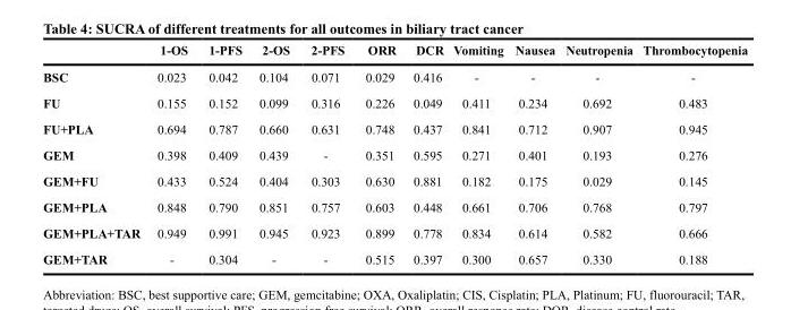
<table><thead><tr><td></td><td>1-OS</td><td>1-PFS</td><td>2-OS</td><td>2-PFS</td><td>ORR</td><td>DCR</td><td>Vomiting</td><td>Nausea</td><td>Neutropenia</td><td>Thrombocytopenia</td></tr></thead><tbody><tr><td>BSC</td><td>0.023</td><td>0.042</td><td>0.104</td><td>0.071</td><td>0.029</td><td>0.416</td><td>-</td><td>-</td><td>-</td><td>-</td></tr><tr><td>FU</td><td>0.155</td><td>0.152</td><td>0.099</td><td>0.316</td><td>0.226</td><td>0.049</td><td>0.411</td><td>0.234</td><td>0.692</td><td>0.483</td></tr><tr><td>FU+PLA</td><td>0.694</td><td>0.787</td><td>0.660</td><td>0.631</td><td>0.748</td><td>0.437</td><td>0.841</td><td>0.712</td><td>0.907</td><td>0.945</td></tr><tr><td>GEM</td><td>0.398</td><td>0.409</td><td>0.439</td><td>-</td><td>0.351</td><td>0.595</td><td>0.271</td><td>0.401</td><td>0.193</td><td>0.276</td></tr><tr><td>GEM+FU</td><td>0.433</td><td>0.524</td><td>0.404</td><td>0.303</td><td>0.630</td><td>0.881</td><td>0.182</td><td>0.175</td><td>0.029</td><td>0.145</td></tr><tr><td>GEM+PLA</td><td>0.848</td><td>0.790</td><td>0.851</td><td>0.757</td><td>0.603</td><td>0.448</td><td>0.661</td><td>0.706</td><td>0.768</td><td>0.797</td></tr><tr><td>GEM+PLA+TAR</td><td>0.949</td><td>0.991</td><td>0.945</td><td>0.923</td><td>0.899</td><td>0.778</td><td>0.834</td><td>0.614</td><td>0.582</td><td>0.666</td></tr><tr><td>GEM+TAR</td><td>-</td><td>0.304</td><td>-</td><td>-</td><td>0.515</td><td>0.397</td><td>0.300</td><td>0.657</td><td>0.330</td><td>0.188</td></tr></tbody></table>